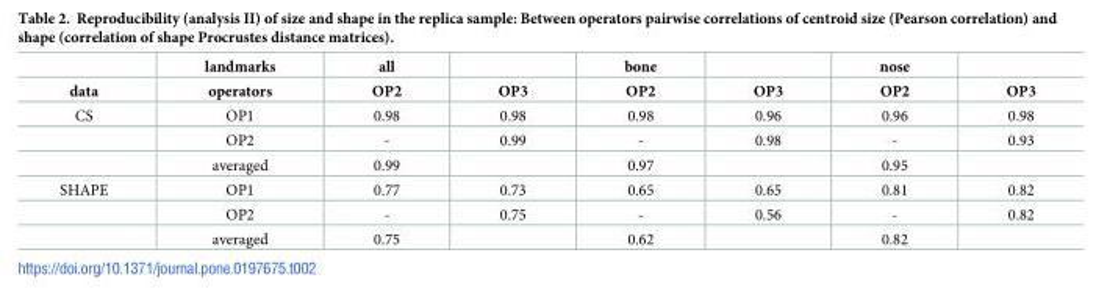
<table><thead><tr><td rowspan="2">data</td><td rowspan="2">landmarks operators</td><td rowspan="2">all OP2</td><td rowspan="2">OP3</td><td rowspan="2">bone OP2</td><td rowspan="2">OP3</td><td rowspan="2">nose OP2</td><td rowspan="2">OP3</td></tr><tr></tr></thead><tbody><tr><td rowspan="3">CS</td><td>OP1</td><td>0.98</td><td>0.98</td><td>0.98</td><td>0.96</td><td>0.96</td><td>0.98</td></tr><tr><td>OP2</td><td>-</td><td>0.99</td><td>-</td><td>0.98</td><td>-</td><td>0.93</td></tr><tr><td>averaged</td><td>0.99</td><td></td><td>0.97</td><td></td><td>0.95</td><td></td></tr><tr><td rowspan="3">SHAPE</td><td>OP1</td><td>0.77</td><td>0.73</td><td>0.65</td><td>0.65</td><td>0.81</td><td>0.82</td></tr><tr><td>OP2</td><td>-</td><td>0.75</td><td>-</td><td>0.56</td><td>-</td><td>0.82</td></tr><tr><td>averaged</td><td>0.75</td><td></td><td>0.62</td><td></td><td>0.82</td><td></td></tr></tbody></table>